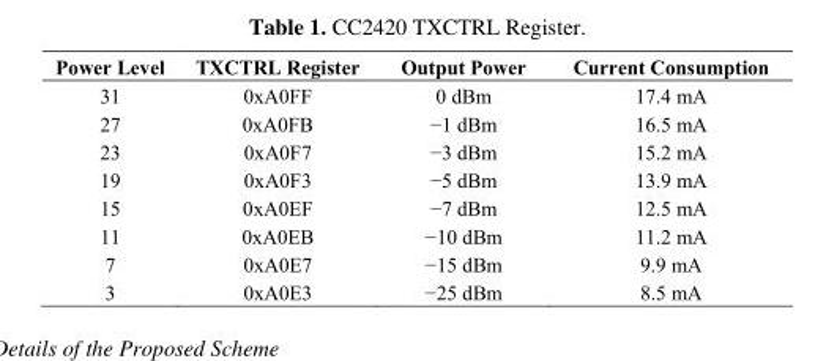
<table><thead><tr><td>Power Level</td><td>TXCTRL Register</td><td>Output Power</td><td>Current Consumption</td></tr></thead><tbody><tr><td>31</td><td>0xA0FF</td><td>0 dBm</td><td>17.4 mA</td></tr><tr><td>27</td><td>0xA0FB</td><td>−1 dBm</td><td>16.5 mA</td></tr><tr><td>23</td><td>0xA0F7</td><td>−3 dBm</td><td>15.2 mA</td></tr><tr><td>19</td><td>0xA0F3</td><td>−5 dBm</td><td>13.9 mA</td></tr><tr><td>15</td><td>0xA0EF</td><td>−7 dBm</td><td>12.5 mA</td></tr><tr><td>11</td><td>0xA0EB</td><td>−10 dBm</td><td>11.2 mA</td></tr><tr><td>7</td><td>0xA0E7</td><td>−15 dBm</td><td>9.9 mA</td></tr><tr><td>3</td><td>0xA0E3</td><td>−25 dBm</td><td>8.5 mA</td></tr></tbody></table>